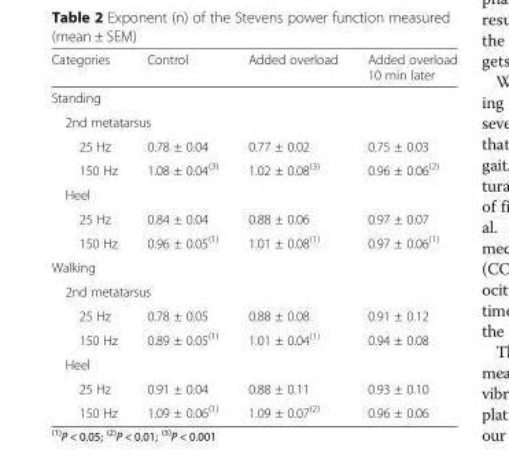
<table><thead><tr><td>Categories</td><td>Control</td><td>Added overload</td><td>Added overload 10 min later</td></tr></thead><tbody><tr><td colspan="4">Standing</td></tr><tr><td colspan="4">2nd metatarsus</td></tr><tr><td>25 Hz</td><td>0.78 ± 0.04</td><td>0.77 ± 0.02</td><td>0.75 ± 0.03</td></tr><tr><td>150 Hz</td><td>1.08 ± 0.04<sup>(3)</sup></td><td>1.02 ± 0.08<sup>(3)</sup></td><td>0.96 ± 0.06<sup>(2)</sup></td></tr><tr><td colspan="4">Heel</td></tr><tr><td>25 Hz</td><td>0.84 ± 0.04</td><td>0.88 ± 0.06</td><td>0.97 ± 0.07</td></tr><tr><td>150 Hz</td><td>0.96 ± 0.05<sup>(1)</sup></td><td>1.01 ± 0.08<sup>(1)</sup></td><td>0.97 ± 0.06<sup>(1)</sup></td></tr><tr><td colspan="4">Walking</td></tr><tr><td colspan="4">2nd metatarsus</td></tr><tr><td>25 Hz</td><td>0.78 ± 0.05</td><td>0.88 ± 0.08</td><td>0.91 ± 0.12</td></tr><tr><td>150 Hz</td><td>0.89 ± 0.05<sup>(1)</sup></td><td>1.01 ± 0.04<sup>(1)</sup></td><td>0.94 ± 0.08</td></tr><tr><td colspan="4">Heel</td></tr><tr><td>25 Hz</td><td>0.91 ± 0.04</td><td>0.88 ± 0.11</td><td>0.93 ± 0.10</td></tr><tr><td>150 Hz</td><td>1.09 ± 0.06<sup>(1)</sup></td><td>1.09 ± 0.07<sup>(2)</sup></td><td>0.96 ± 0.06</td></tr></tbody></table>